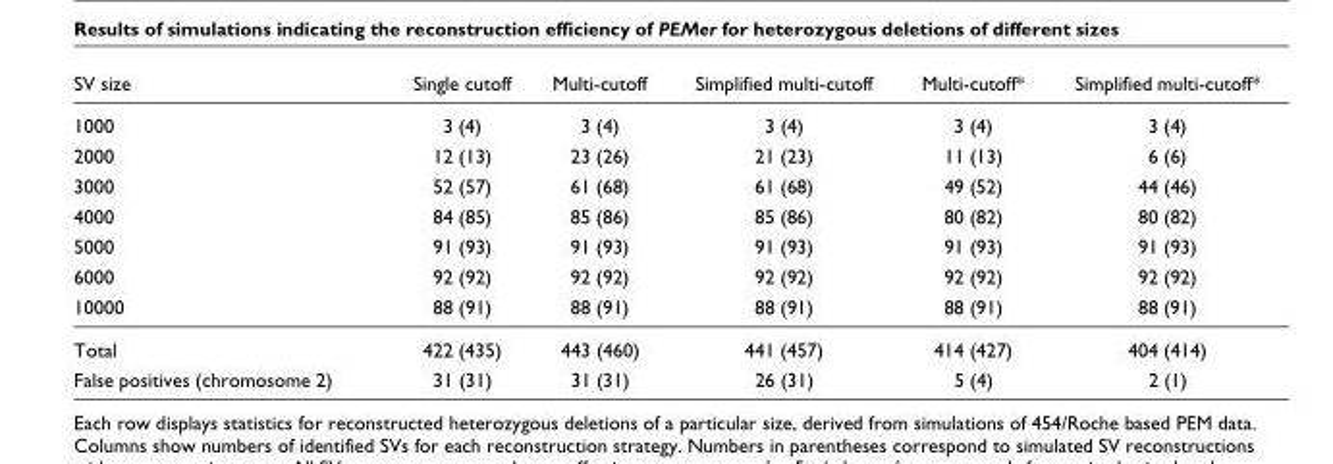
<table><thead><tr><td>SV size</td><td>Single cutoff</td><td>Multi-cutoff</td><td>Simplified multi-cutoff</td><td>Multi-cutoff*</td><td>Simplified multi-cutoff*</td></tr></thead><tbody><tr><td>1000</td><td>3 (4)</td><td>3 (4)</td><td>3 (4)</td><td>3 (4)</td><td>3 (4)</td></tr><tr><td>2000</td><td>12 (13)</td><td>23 (26)</td><td>21 (23)</td><td>11 (13)</td><td>6 (6)</td></tr><tr><td>3000</td><td>52 (57)</td><td>61 (68)</td><td>61 (68)</td><td>49 (52)</td><td>44 (46)</td></tr><tr><td>4000</td><td>84 (85)</td><td>85 (86)</td><td>85 (86)</td><td>80 (82)</td><td>80 (82)</td></tr><tr><td>5000</td><td>91 (93)</td><td>91 (93)</td><td>91 (93)</td><td>91 (93)</td><td>91 (93)</td></tr><tr><td>6000</td><td>92 (92)</td><td>92 (92)</td><td>92 (92)</td><td>92 (92)</td><td>92 (92)</td></tr><tr><td>10000</td><td>88 (91)</td><td>88 (91)</td><td>88 (91)</td><td>88 (91)</td><td>88 (91)</td></tr><tr><td>Total</td><td>422 (435)</td><td>443 (460)</td><td>441 (457)</td><td>414 (427)</td><td>404 (414)</td></tr><tr><td>False positives (chromosome 2)</td><td>31 (31)</td><td>31 (31)</td><td>26 (31)</td><td>5 (4)</td><td>2 (1)</td></tr></tbody></table>